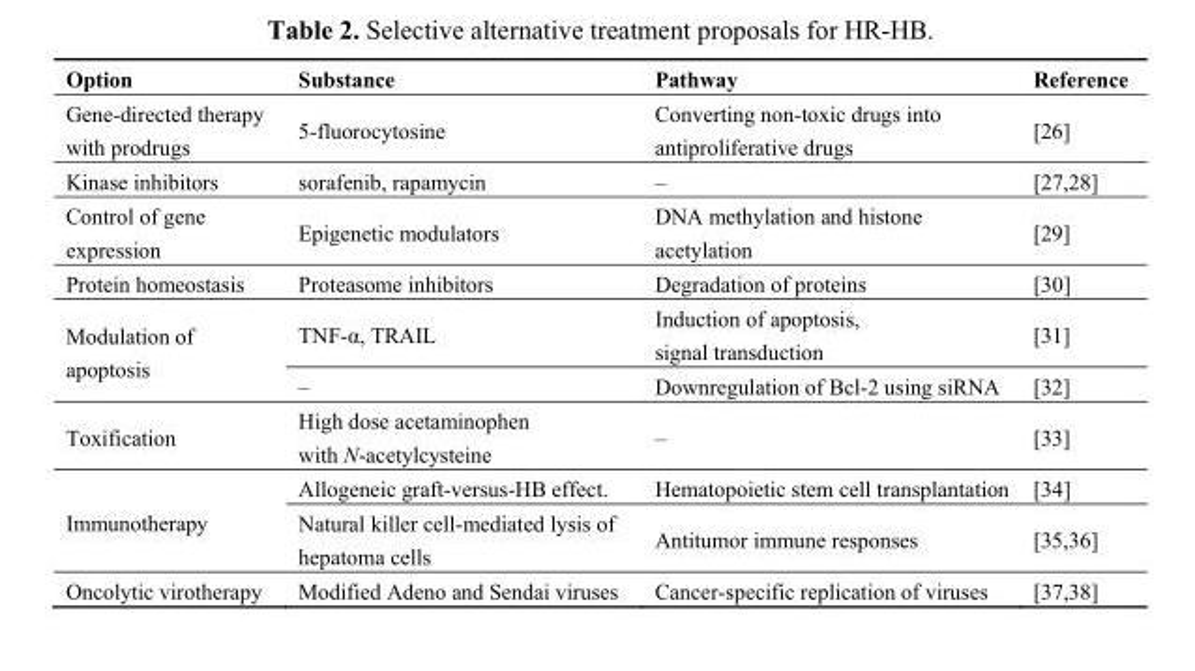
<table><thead><tr><td>Option</td><td>Substance</td><td>Pathway</td><td>Reference</td></tr></thead><tbody><tr><td>Gene-directed therapy with prodrugs</td><td>5-fluorocytosine</td><td>Converting non-toxic drugs into antiproliferative drugs</td><td>[26]</td></tr><tr><td>Kinase inhibitors</td><td>sorafenib, rapamycin</td><td>–</td><td>[27,28]</td></tr><tr><td>Control of gene expression</td><td>Epigenetic modulators</td><td>DNA methylation and histone acetylation</td><td>[29]</td></tr><tr><td>Protein homeostasis</td><td>Proteasome inhibitors</td><td>Degradation of proteins</td><td>[30]</td></tr><tr><td rowspan="2">Modulation of apoptosis</td><td>TNF-α, TRAIL</td><td>Induction of apoptosis, signal transduction</td><td>[31]</td></tr><tr><td>–</td><td>Downregulation of Bcl-2 using siRNA</td><td>[32]</td></tr><tr><td>Toxification</td><td>High dose acetaminophen with N-acetylcysteine</td><td>–</td><td>[33]</td></tr><tr><td rowspan="2">Immunotherapy</td><td>Allogeneic graft-versus-HB effect.</td><td>Hematopoietic stem cell transplantation</td><td>[34]</td></tr><tr><td>Natural killer cell-mediated lysis of hepatoma cells</td><td>Antitumor immune responses</td><td>[35,36]</td></tr><tr><td>Oncolytic virotherapy</td><td>Modified Adeno and Sendai viruses</td><td>Cancer-specific replication of viruses</td><td>[37,38]</td></tr></tbody></table>